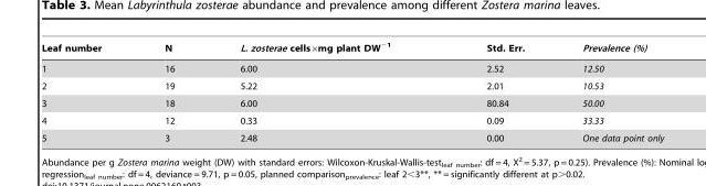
<table><thead><tr><td>Leaf number</td><td>N</td><td>L. zosterae cells×mg plant DW<sup>−1</sup></td><td>Std. Err.</td><td>Prevalence (%)</td></tr></thead><tbody><tr><td>1</td><td>16</td><td>6.00</td><td>2.52</td><td>12.50</td></tr><tr><td>2</td><td>19</td><td>5.22</td><td>2.01</td><td>10.53</td></tr><tr><td>3</td><td>18</td><td>6.00</td><td>80.84</td><td>50.00</td></tr><tr><td>4</td><td>12</td><td>0.33</td><td>0.09</td><td>33.33</td></tr><tr><td>5</td><td>3</td><td>2.48</td><td>0.00</td><td>One data point only</td></tr></tbody></table>